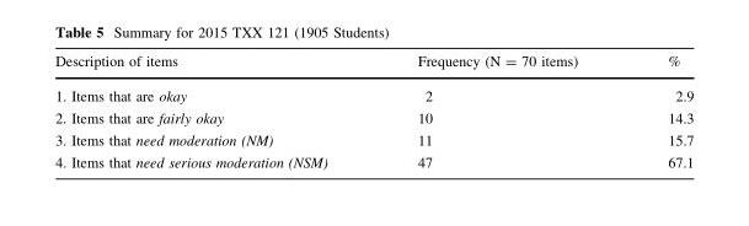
<table><thead><tr><td>Description of items</td><td>Frequency (N = 70 items)</td><td>%</td></tr></thead><tbody><tr><td>1. Items that are okay</td><td>2</td><td>2.9</td></tr><tr><td>2. Items that are fairly okay</td><td>10</td><td>14.3</td></tr><tr><td>3. Items that need moderation (NM)</td><td>11</td><td>15.7</td></tr><tr><td>4. Items that need serious moderation (NSM)</td><td>47</td><td>67.1</td></tr></tbody></table>